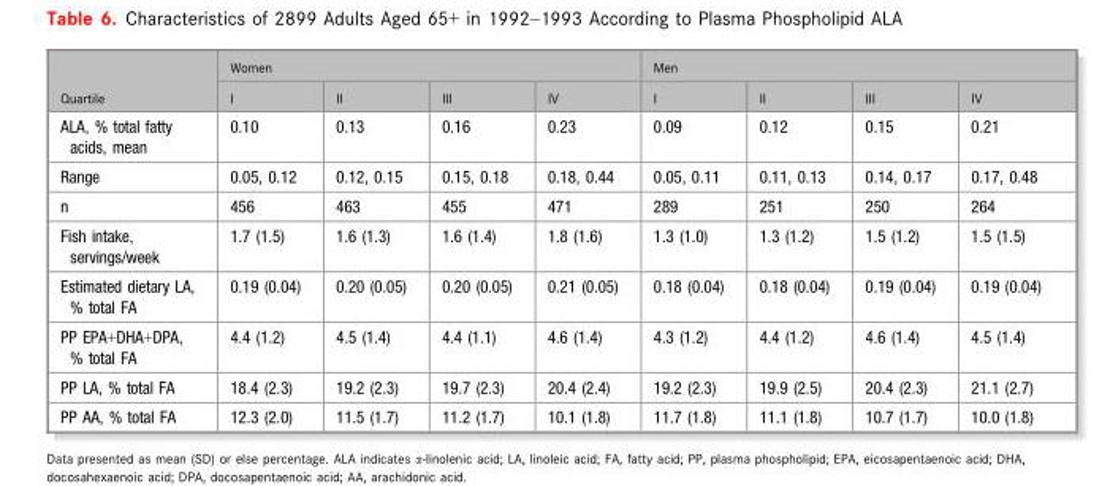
<table><thead><tr><td rowspan="2">Quartile</td><td colspan="4">Women</td><td colspan="4">Men</td></tr><tr><td>I</td><td>II</td><td>III</td><td>IV</td><td>I</td><td>II</td><td>III</td><td>IV</td></tr></thead><tbody><tr><td>ALA, % total fatty acids, mean</td><td>0.10</td><td>0.13</td><td>0.16</td><td>0.23</td><td>0.09</td><td>0.12</td><td>0.15</td><td>0.21</td></tr><tr><td>Range</td><td>0.05, 0.12</td><td>0.12, 0.15</td><td>0.15, 0.18</td><td>0.18, 0.44</td><td>0.05, 0.11</td><td>0.11, 0.13</td><td>0.14, 0.17</td><td>0.17, 0.48</td></tr><tr><td>n</td><td>456</td><td>463</td><td>455</td><td>471</td><td>289</td><td>251</td><td>250</td><td>264</td></tr><tr><td>Fish intake, servings/week</td><td>1.7 (1.5)</td><td>1.6 (1.3)</td><td>1.6 (1.4)</td><td>1.8 (1.6)</td><td>1.3 (1.0)</td><td>1.3 (1.2)</td><td>1.5 (1.2)</td><td>1.5 (1.5)</td></tr><tr><td>Estimated dietary LA, % total FA</td><td>0.19 (0.04)</td><td>0.20 (0.05)</td><td>0.20 (0.05)</td><td>0.21 (0.05)</td><td>0.18 (0.04)</td><td>0.18 (0.04)</td><td>0.19 (0.04)</td><td>0.19 (0.04)</td></tr><tr><td>PP EPA+DHA+DPA, % total FA</td><td>4.4 (1.2)</td><td>4.5 (1.4)</td><td>4.4 (1.1)</td><td>4.6 (1.4)</td><td>4.3 (1.2)</td><td>4.4 (1.2)</td><td>4.6 (1.4)</td><td>4.5 (1.4)</td></tr><tr><td>PP LA, % total FA</td><td>18.4 (2.3)</td><td>19.2 (2.3)</td><td>19.7 (2.3)</td><td>20.4 (2.4)</td><td>19.2 (2.3)</td><td>19.9 (2.5)</td><td>20.4 (2.3)</td><td>21.1 (2.7)</td></tr><tr><td>PP AA, % total FA</td><td>12.3 (2.0)</td><td>11.5 (1.7)</td><td>11.2 (1.7)</td><td>10.1 (1.8)</td><td>11.7 (1.8)</td><td>11.1 (1.8)</td><td>10.7 (1.7)</td><td>10.0 (1.8)</td></tr></tbody></table>